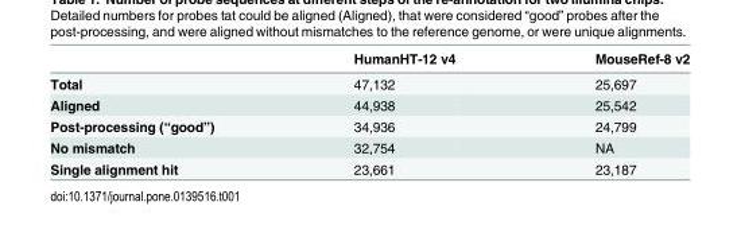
<table><thead><tr><td></td><td>HumanHT-12 v4</td><td>MouseRef-8 v2</td></tr></thead><tbody><tr><td>Total</td><td>47,132</td><td>25,697</td></tr><tr><td>Aligned</td><td>44,938</td><td>25,542</td></tr><tr><td>Post-processing (“good”)</td><td>34,936</td><td>24,799</td></tr><tr><td>No mismatch</td><td>32,754</td><td>NA</td></tr><tr><td>Single alignment hit</td><td>23,661</td><td>23,187</td></tr></tbody></table>